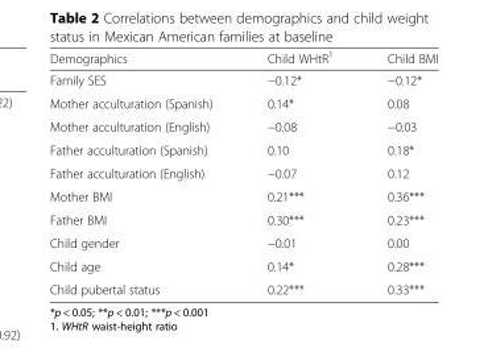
<table><thead><tr><td>Demographics</td><td>Child WHtR<sup>1</sup></td><td>Child BMI</td></tr></thead><tbody><tr><td>Family SES</td><td>−0.12*</td><td>−0.12*</td></tr><tr><td>Mother acculturation (Spanish)</td><td>0.14*</td><td>0.08</td></tr><tr><td>Mother acculturation (English)</td><td>−0.08</td><td>−0.03</td></tr><tr><td>Father acculturation (Spanish)</td><td>0.10</td><td>0.18*</td></tr><tr><td>Father acculturation (English)</td><td>−0.07</td><td>0.12</td></tr><tr><td>Mother BMI</td><td>0.21***</td><td>0.36***</td></tr><tr><td>Father BMI</td><td>0.30***</td><td>0.23***</td></tr><tr><td>Child gender</td><td>−0.01</td><td>0.00</td></tr><tr><td>Child age</td><td>0.14*</td><td>0.28***</td></tr><tr><td>Child pubertal status</td><td>0.22***</td><td>0.33***</td></tr></tbody></table>